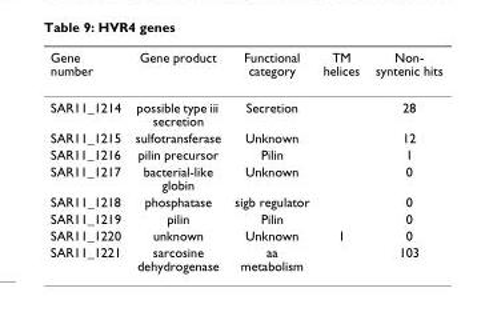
<table><thead><tr><td>Gene number</td><td>Gene product</td><td>Functional category</td><td>TM helices</td><td>Non- syntenic hits</td></tr></thead><tbody><tr><td>SAR11_1214</td><td>possible type iii secretion</td><td>Secretion</td><td></td><td>28</td></tr><tr><td>SAR11_1215</td><td>sulfotransferase</td><td>Unknown</td><td></td><td>12</td></tr><tr><td>SAR11_1216</td><td>pilin precursor</td><td>Pilin</td><td></td><td>1</td></tr><tr><td>SAR11_1217</td><td>bacterial-like globin</td><td>Unknown</td><td></td><td>0</td></tr><tr><td>SAR11_1218</td><td>phosphatase</td><td>sigb regulator</td><td></td><td>0</td></tr><tr><td>SAR11_1219</td><td>pilin</td><td>Pilin</td><td></td><td>0</td></tr><tr><td>SAR11_1220</td><td>unknown</td><td>Unknown</td><td>1</td><td>0</td></tr><tr><td>SAR11_1221</td><td>sarcosine dehydrogenase</td><td>aa metabolism</td><td></td><td>103</td></tr></tbody></table>